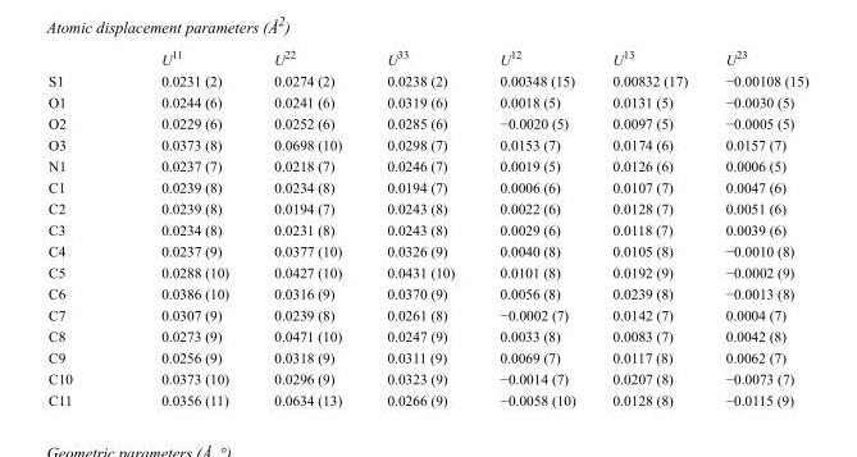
<table><thead><tr><td></td><td>U<sup>11</sup></td><td>U<sup>22</sup></td><td>U<sup>33</sup></td><td>U<sup>12</sup></td><td>U<sup>13</sup></td><td>U<sup>23</sup></td></tr></thead><tbody><tr><td>S1</td><td>0.0231 (2)</td><td>0.0274 (2)</td><td>0.0238 (2)</td><td>0.00348 (15)</td><td>0.00832 (17)</td><td>−0.00108 (15)</td></tr><tr><td>O1</td><td>0.0244 (6)</td><td>0.0241 (6)</td><td>0.0319 (6)</td><td>0.0018 (5)</td><td>0.0131 (5)</td><td>−0.0030 (5)</td></tr><tr><td>O2</td><td>0.0229 (6)</td><td>0.0252 (6)</td><td>0.0285 (6)</td><td>−0.0020 (5)</td><td>0.0097 (5)</td><td>−0.0005 (5)</td></tr><tr><td>O3</td><td>0.0373 (8)</td><td>0.0698 (10)</td><td>0.0298 (7)</td><td>0.0153 (7)</td><td>0.0174 (6)</td><td>0.0157 (7)</td></tr><tr><td>N1</td><td>0.0237 (7)</td><td>0.0218 (7)</td><td>0.0246 (7)</td><td>0.0019 (5)</td><td>0.0126 (6)</td><td>0.0006 (5)</td></tr><tr><td>C1</td><td>0.0239 (8)</td><td>0.0234 (8)</td><td>0.0194 (7)</td><td>0.0006 (6)</td><td>0.0107 (7)</td><td>0.0047 (6)</td></tr><tr><td>C2</td><td>0.0239 (8)</td><td>0.0194 (7)</td><td>0.0243 (8)</td><td>0.0022 (6)</td><td>0.0128 (7)</td><td>0.0051 (6)</td></tr><tr><td>C3</td><td>0.0234 (8)</td><td>0.0231 (8)</td><td>0.0243 (8)</td><td>0.0029 (6)</td><td>0.0118 (7)</td><td>0.0039 (6)</td></tr><tr><td>C4</td><td>0.0237 (9)</td><td>0.0377 (10)</td><td>0.0326 (9)</td><td>0.0040 (8)</td><td>0.0105 (8)</td><td>−0.0010 (8)</td></tr><tr><td>C5</td><td>0.0288 (10)</td><td>0.0427 (10)</td><td>0.0431 (10)</td><td>0.0101 (8)</td><td>0.0192 (9)</td><td>−0.0002 (9)</td></tr><tr><td>C6</td><td>0.0386 (10)</td><td>0.0316 (9)</td><td>0.0370 (9)</td><td>0.0056 (8)</td><td>0.0239 (8)</td><td>−0.0013 (8)</td></tr><tr><td>C7</td><td>0.0307 (9)</td><td>0.0239 (8)</td><td>0.0261 (8)</td><td>−0.0002 (7)</td><td>0.0142 (7)</td><td>0.0004 (7)</td></tr><tr><td>C8</td><td>0.0273 (9)</td><td>0.0471 (10)</td><td>0.0247 (9)</td><td>0.0033 (8)</td><td>0.0083 (7)</td><td>0.0042 (8)</td></tr><tr><td>C9</td><td>0.0256 (9)</td><td>0.0318 (9)</td><td>0.0311 (9)</td><td>0.0069 (7)</td><td>0.0117 (8)</td><td>0.0062 (7)</td></tr><tr><td>C10</td><td>0.0373 (10)</td><td>0.0296 (9)</td><td>0.0323 (9)</td><td>−0.0014 (7)</td><td>0.0207 (8)</td><td>−0.0073 (7)</td></tr><tr><td>C11</td><td>0.0356 (11)</td><td>0.0634 (13)</td><td>0.0266 (9)</td><td>−0.0058 (10)</td><td>0.0128 (8)</td><td>−0.0115 (9)</td></tr></tbody></table>